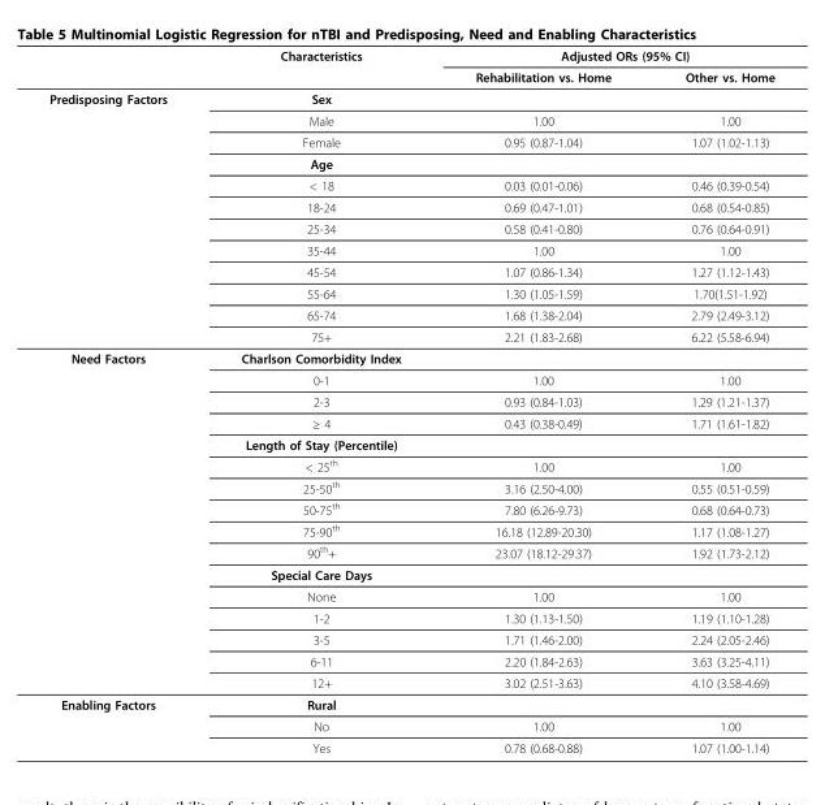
<table><thead><tr><td rowspan="2"></td><td rowspan="2">Characteristics</td><td colspan="2">Adjusted ORs (95% CI)</td></tr><tr><td>Rehabilitation vs. Home</td><td>Other vs. Home</td></tr></thead><tbody><tr><td rowspan="12">Predisposing Factors</td><td>Sex</td><td></td><td></td></tr><tr><td>Male</td><td>1.00</td><td>1.00</td></tr><tr><td>Female</td><td>0.95 (0.87-1.04)</td><td>1.07 (1.02-1.13)</td></tr><tr><td>Age</td><td></td><td></td></tr><tr><td>&lt; 18</td><td>0.03 (0.01-0.06)</td><td>0.46 (0.39-0.54)</td></tr><tr><td>18-24</td><td>0.69 (0.47-1.01)</td><td>0.68 (0.54-0.85)</td></tr><tr><td>25-34</td><td>0.58 (0.41-0.80)</td><td>0.76 (0.64-0.91)</td></tr><tr><td>35-44</td><td>1.00</td><td>1.00</td></tr><tr><td>45-54</td><td>1.07 (0.86-1.34)</td><td>1.27 (1.12-1.43)</td></tr><tr><td>55-64</td><td>1.30 (1.05-1.59)</td><td>1.70(1.51-1.92)</td></tr><tr><td>65-74</td><td>1.68 (1.38-2.04)</td><td>2.79 (2.49-3.12)</td></tr><tr><td>75+</td><td>2.21 (1.83-2.68)</td><td>6.22 (5.58-6.94)</td></tr><tr><td rowspan="16">Need Factors</td><td>Charlson Comorbidity Index</td><td></td><td></td></tr><tr><td>0-1</td><td>1.00</td><td>1.00</td></tr><tr><td>2-3</td><td>0.93 (0.84-1.03)</td><td>1.29 (1.21-1.37)</td></tr><tr><td>≥ 4</td><td>0.43 (0.38-0.49)</td><td>1.71 (1.61-1.82)</td></tr><tr><td>Length of Stay (Percentile)</td><td></td><td></td></tr><tr><td>&lt; 25<sup>th</sup></td><td>1.00</td><td>1.00</td></tr><tr><td>25-50<sup>th</sup></td><td>3.16 (2.50-4.00)</td><td>0.55 (0.51-0.59)</td></tr><tr><td>50-75<sup>th</sup></td><td>7.80 (6.26-9.73)</td><td>0.68 (0.64-0.73)</td></tr><tr><td>75-90<sup>th</sup></td><td>16.18 (12.89-20.30)</td><td>1.17 (1.08-1.27)</td></tr><tr><td>90<sup>th</sup>+</td><td>23.07 (18.12-29.37)</td><td>1.92 (1.73-2.12)</td></tr><tr><td>Special Care Days</td><td></td><td></td></tr><tr><td>None</td><td>1.00</td><td>1.00</td></tr><tr><td>1-2</td><td>1.30 (1.13-1.50)</td><td>1.19 (1.10-1.28)</td></tr><tr><td>3-5</td><td>1.71 (1.46-2.00)</td><td>2.24 (2.05-2.46)</td></tr><tr><td>6-11</td><td>2.20 (1.84-2.63)</td><td>3.63 (3.25-4.11)</td></tr><tr><td>12+</td><td>3.02 (2.51-3.63)</td><td>4.10 (3.58-4.69)</td></tr><tr><td rowspan="3">Enabling Factors</td><td>Rural</td><td></td><td></td></tr><tr><td>No</td><td>1.00</td><td>1.00</td></tr><tr><td>Yes</td><td>0.78 (0.68-0.88)</td><td>1.07 (1.00-1.14)</td></tr></tbody></table>